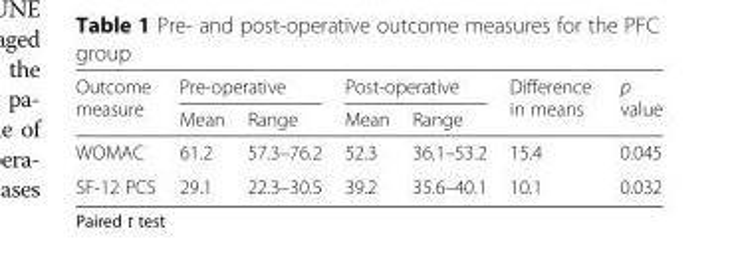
<table><thead><tr><td rowspan="2">Outcome measure</td><td colspan="2">Pre-operative</td><td colspan="2">Post-operative</td><td rowspan="2">Difference in means</td><td rowspan="2">p value</td></tr><tr><td>Mean</td><td>Range</td><td>Mean</td><td>Range</td></tr></thead><tbody><tr><td>WOMAC</td><td>61.2</td><td>57.3–76.2</td><td>52.3</td><td>36.1–53.2</td><td>15.4</td><td>0.045</td></tr><tr><td>SF-12 PCS</td><td>29.1</td><td>22.3–30.5</td><td>39.2</td><td>35.6–40.1</td><td>10.1</td><td>0.032</td></tr></tbody></table>